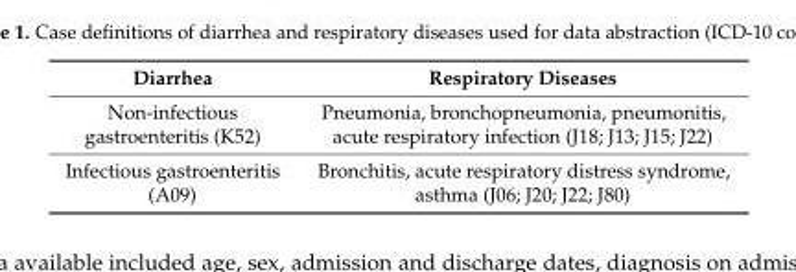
<table><thead><tr><td>Diarrhea</td><td>Respiratory Diseases</td></tr></thead><tbody><tr><td>Non-infectious gastroenteritis (K52)</td><td>Pneumonia, bronchopneumonia, pneumonitis, acute respiratory infection (J18; J13; J15; J22)</td></tr><tr><td>Infectious gastroenteritis (A09)</td><td>Bronchitis, acute respiratory distress syndrome, asthma (J06; J20; J22; J80)</td></tr></tbody></table>